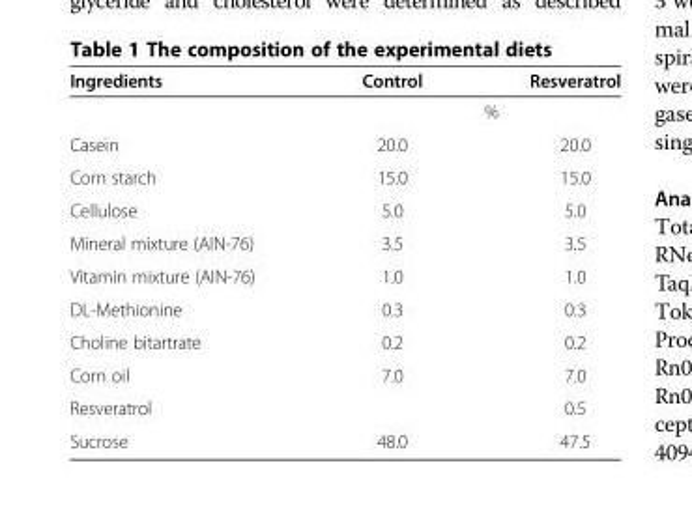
<table><thead><tr><td>Ingredients</td><td>Control</td><td>Resveratrol</td></tr></thead><tbody><tr><td></td><td colspan="2">%</td></tr><tr><td>Casein</td><td>20.0</td><td>20.0</td></tr><tr><td>Corn starch</td><td>15.0</td><td>15.0</td></tr><tr><td>Cellulose</td><td>5.0</td><td>5.0</td></tr><tr><td>Mineral mixture (AIN-76)</td><td>3.5</td><td>3.5</td></tr><tr><td>Vitamin mixture (AIN-76)</td><td>1.0</td><td>1.0</td></tr><tr><td>DL-Methionine</td><td>0.3</td><td>0.3</td></tr><tr><td>Choline bitartrate</td><td>0.2</td><td>0.2</td></tr><tr><td>Corn oil</td><td>7.0</td><td>7.0</td></tr><tr><td>Resveratrol</td><td></td><td>0.5</td></tr><tr><td>Sucrose</td><td>48.0</td><td>47.5</td></tr></tbody></table>